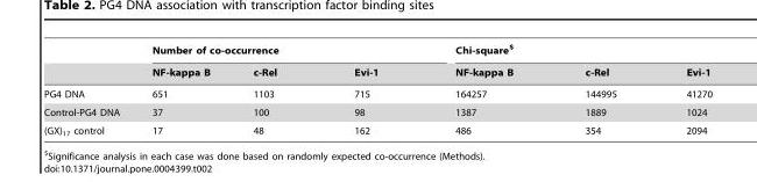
<table><thead><tr><td rowspan="2"></td><td colspan="3">Number of co-occurrence</td><td colspan="3">Chi-square$</td></tr><tr><td>NF-kappa B</td><td>c-Rel</td><td>Evi-1</td><td>NF-kappa B</td><td>c-Rel</td><td>Evi-1</td></tr></thead><tbody><tr><td>PG4 DNA</td><td>651</td><td>1103</td><td>715</td><td>164257</td><td>144995</td><td>41270</td></tr><tr><td>Control-PG4 DNA</td><td>37</td><td>100</td><td>98</td><td>1387</td><td>1889</td><td>1024</td></tr><tr><td>(GX)<sub>17</sub> control</td><td>17</td><td>48</td><td>162</td><td>486</td><td>354</td><td>2094</td></tr></tbody></table>